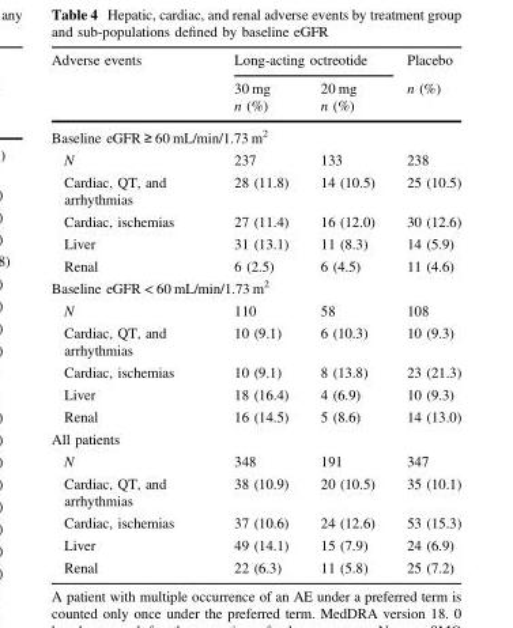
<table><thead><tr><td rowspan="2">Adverse events</td><td colspan="2">Long-acting octreotide</td><td rowspan="2">Placebo n (%)</td></tr><tr><td>30 mg n (%)</td><td>20 mg n (%)</td></tr></thead><tbody><tr><td colspan="4">Baseline eGFR ≥ 60 mL/min/1.73 m<sup>2</sup></td></tr><tr><td>N</td><td>237</td><td>133</td><td>238</td></tr><tr><td>Cardiac, QT, and arrhythmias</td><td>28 (11.8)</td><td>14 (10.5)</td><td>25 (10.5)</td></tr><tr><td>Cardiac, ischemias</td><td>27 (11.4)</td><td>16 (12.0)</td><td>30 (12.6)</td></tr><tr><td>Liver</td><td>31 (13.1)</td><td>11 (8.3)</td><td>14 (5.9)</td></tr><tr><td>Renal</td><td>6 (2.5)</td><td>6 (4.5)</td><td>11 (4.6)</td></tr><tr><td colspan="4">Baseline eGFR &lt; 60 mL/min/1.73 m<sup>2</sup></td></tr><tr><td>N</td><td>110</td><td>58</td><td>108</td></tr><tr><td>Cardiac, QT, and arrhythmias</td><td>10 (9.1)</td><td>6 (10.3)</td><td>10 (9.3)</td></tr><tr><td>Cardiac, ischemias</td><td>10 (9.1)</td><td>8 (13.8)</td><td>23 (21.3)</td></tr><tr><td>Liver</td><td>18 (16.4)</td><td>4 (6.9)</td><td>10 (9.3)</td></tr><tr><td>Renal</td><td>16 (14.5)</td><td>5 (8.6)</td><td>14 (13.0)</td></tr><tr><td colspan="4">All patients</td></tr><tr><td>N</td><td>348</td><td>191</td><td>347</td></tr><tr><td>Cardiac, QT, and arrhythmias</td><td>38 (10.9)</td><td>20 (10.5)</td><td>35 (10.1)</td></tr><tr><td>Cardiac, ischemias</td><td>37 (10.6)</td><td>24 (12.6)</td><td>53 (15.3)</td></tr><tr><td>Liver</td><td>49 (14.1)</td><td>15 (7.9)</td><td>24 (6.9)</td></tr><tr><td>Renal</td><td>22 (6.3)</td><td>11 (5.8)</td><td>25 (7.2)</td></tr></tbody></table>